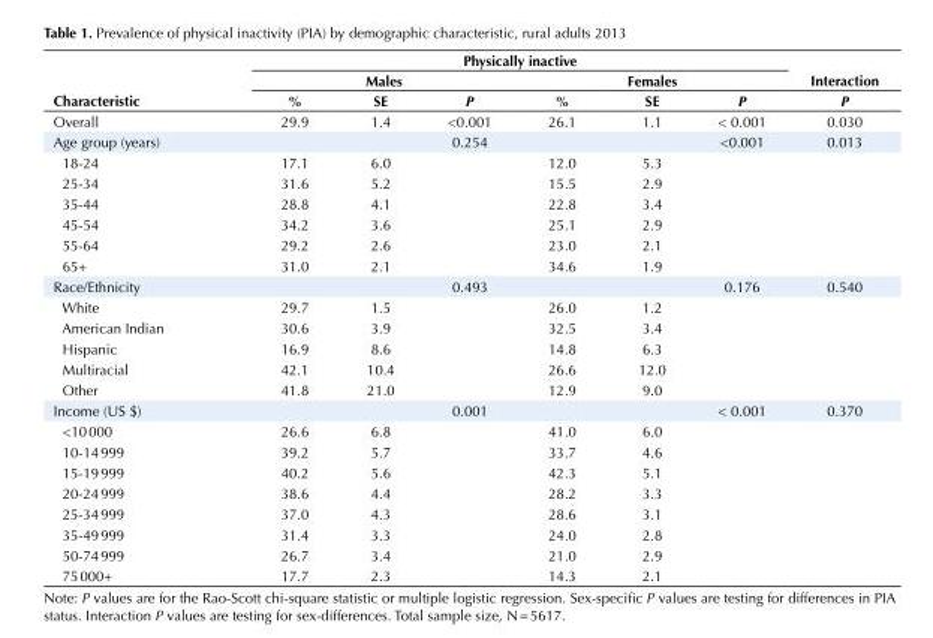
<table><thead><tr><td rowspan="3">Characteristic</td><td colspan="6">Physically inactive</td><td rowspan="3">Interaction P</td></tr><tr><td colspan="3">Males</td><td colspan="3">Females</td></tr><tr><td>%</td><td>SE</td><td>P</td><td>%</td><td>SE</td><td>P</td></tr></thead><tbody><tr><td>Overall</td><td>29.9</td><td>1.4</td><td>&lt;0.001</td><td>26.1</td><td>1.1</td><td>&lt; 0.001</td><td>0.030</td></tr><tr><td>Age group (years)</td><td></td><td></td><td>0.254</td><td></td><td></td><td>&lt;0.001</td><td>0.013</td></tr><tr><td>18-24</td><td>17.1</td><td>6.0</td><td></td><td>12.0</td><td>5.3</td><td></td><td></td></tr><tr><td>25-34</td><td>31.6</td><td>5.2</td><td></td><td>15.5</td><td>2.9</td><td></td><td></td></tr><tr><td>35-44</td><td>28.8</td><td>4.1</td><td></td><td>22.8</td><td>3.4</td><td></td><td></td></tr><tr><td>45-54</td><td>34.2</td><td>3.6</td><td></td><td>25.1</td><td>2.9</td><td></td><td></td></tr><tr><td>55-64</td><td>29.2</td><td>2.6</td><td></td><td>23.0</td><td>2.1</td><td></td><td></td></tr><tr><td>65+</td><td>31.0</td><td>2.1</td><td></td><td>34.6</td><td>1.9</td><td></td><td></td></tr><tr><td>Race/Ethnicity</td><td></td><td></td><td>0.493</td><td></td><td></td><td>0.176</td><td>0.540</td></tr><tr><td>White</td><td>29.7</td><td>1.5</td><td></td><td>26.0</td><td>1.2</td><td></td><td></td></tr><tr><td>American Indian</td><td>30.6</td><td>3.9</td><td></td><td>32.5</td><td>3.4</td><td></td><td></td></tr><tr><td>Hispanic</td><td>16.9</td><td>8.6</td><td></td><td>14.8</td><td>6.3</td><td></td><td></td></tr><tr><td>Multiracial</td><td>42.1</td><td>10.4</td><td></td><td>26.6</td><td>12.0</td><td></td><td></td></tr><tr><td>Other</td><td>41.8</td><td>21.0</td><td></td><td>12.9</td><td>9.0</td><td></td><td></td></tr><tr><td>Income (US $)</td><td></td><td></td><td>0.001</td><td></td><td></td><td>&lt; 0.001</td><td>0.370</td></tr><tr><td>&lt;10 000</td><td>26.6</td><td>6.8</td><td></td><td>41.0</td><td>6.0</td><td></td><td></td></tr><tr><td>10-14 999</td><td>39.2</td><td>5.7</td><td></td><td>33.7</td><td>4.6</td><td></td><td></td></tr><tr><td>15-19 999</td><td>40.2</td><td>5.6</td><td></td><td>42.3</td><td>5.1</td><td></td><td></td></tr><tr><td>20-24 999</td><td>38.6</td><td>4.4</td><td></td><td>28.2</td><td>3.3</td><td></td><td></td></tr><tr><td>25-34 999</td><td>37.0</td><td>4.3</td><td></td><td>28.6</td><td>3.1</td><td></td><td></td></tr><tr><td>35-49 999</td><td>31.4</td><td>3.3</td><td></td><td>24.0</td><td>2.8</td><td></td><td></td></tr><tr><td>50-74 999</td><td>26.7</td><td>3.4</td><td></td><td>21.0</td><td>2.9</td><td></td><td></td></tr><tr><td>75 000+</td><td>17.7</td><td>2.3</td><td></td><td>14.3</td><td>2.1</td><td></td><td></td></tr></tbody></table>